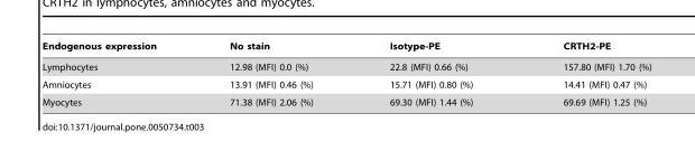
<table><thead><tr><td>Endogenous expression</td><td>No stain</td><td>Isotype-PE</td><td>CRTH2-PE</td></tr></thead><tbody><tr><td>Lymphocytes</td><td>12.98 (MFI) 0.0 (%)</td><td>22.8 (MFI) 0.66 (%)</td><td>157.80 (MFI) 1.70 (%)</td></tr><tr><td>Amniocytes</td><td>13.91 (MFI) 0.46 (%)</td><td>15.71 (MFI) 0.80 (%)</td><td>14.41 (MFI) 0.47 (%)</td></tr><tr><td>Myocytes</td><td>71.38 (MFI) 2.06 (%)</td><td>69.30 (MFI) 1.44 (%)</td><td>69.69 (MFI) 1.25 (%)</td></tr></tbody></table>